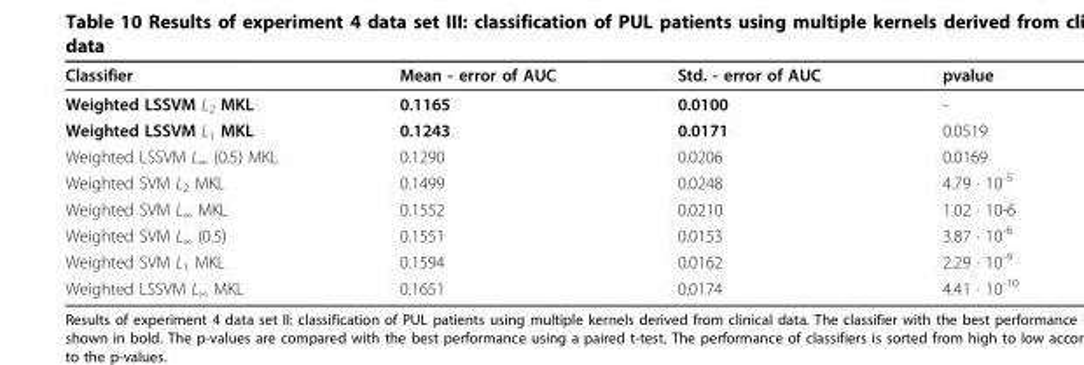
<table><thead><tr><td>Classifier</td><td>Mean - error of AUC</td><td>Std. - error of AUC</td><td>pvalue</td></tr></thead><tbody><tr><td>Weighted LSSVM L<sub>2</sub> MKL</td><td>0.1165</td><td>0.0100</td><td>-</td></tr><tr><td>Weighted LSSVM L<sub>1</sub> MKL</td><td>0.1243</td><td>0.0171</td><td>0.0519</td></tr><tr><td>Weighted LSSVM L<sub>∞</sub> (0.5) MKL</td><td>0.1290</td><td>0.0206</td><td>0.0169</td></tr><tr><td>Weighted SVM L<sub>2</sub> MKL</td><td>0.1499</td><td>0.0248</td><td>4.79 · 10<sup>-5</sup></td></tr><tr><td>Weighted SVM L<sub>∞</sub> MKL</td><td>0.1552</td><td>0.0210</td><td>1.02 · 10-6</td></tr><tr><td>Weighted SVM L<sub>∞</sub> (0.5)</td><td>0.1551</td><td>0.0153</td><td>3.87 · 10<sup>-6</sup></td></tr><tr><td>Weighted SVM L<sub>1</sub> MKL</td><td>0.1594</td><td>0.0162</td><td>2.29 · 10<sup>-9</sup></td></tr><tr><td>Weighted LSSVM L<sub>∞</sub> MKL</td><td>0.1651</td><td>0.0174</td><td>4.41 · 10<sup>-10</sup></td></tr></tbody></table>